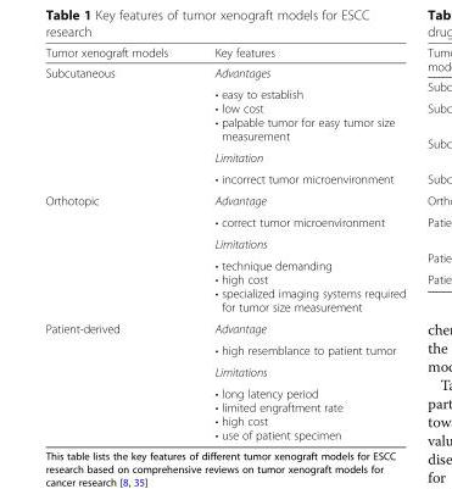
<table><thead><tr><td>Tumor xenograft models</td><td>Key features</td></tr></thead><tbody><tr><td rowspan="4">Subcutaneous</td><td>Advantages</td></tr><tr><td>• easy to establish • low cost • palpable tumor for easy tumor size measurement</td></tr><tr><td>Limitation</td></tr><tr><td>• incorrect tumor microenvironment</td></tr><tr><td rowspan="4">Orthotopic</td><td>Advantage</td></tr><tr><td>• correct tumor microenvironment</td></tr><tr><td>Limitations</td></tr><tr><td>• technique demanding • high cost • specialized imaging systems required for tumor size measurement</td></tr><tr><td rowspan="4">Patient-derived</td><td>Advantage</td></tr><tr><td>• high resemblance to patient tumor</td></tr><tr><td>Limitations</td></tr><tr><td>• long latency period • limited engraftment rate • high cost • use of patient specimen</td></tr></tbody></table>